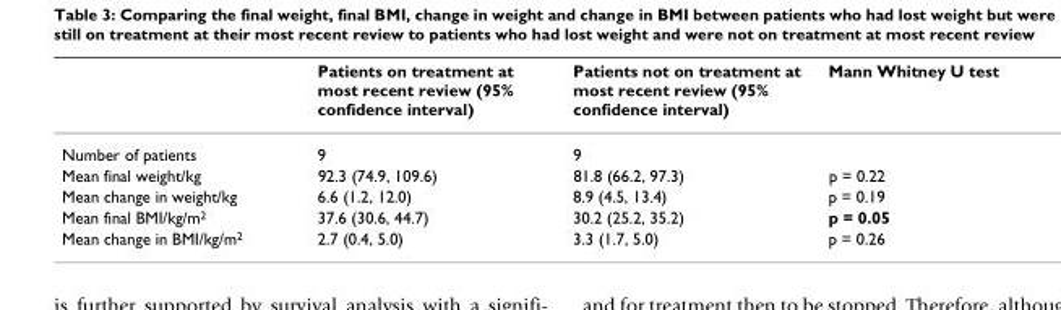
<table><thead><tr><td></td><td>Patients on treatment at most recent review (95% confidence interval)</td><td>Patients not on treatment at most recent review (95% confidence interval)</td><td>Mann Whitney U test</td></tr></thead><tbody><tr><td>Number of patients</td><td>9</td><td>9</td><td></td></tr><tr><td>Mean final weight/kg</td><td>92.3 (74.9, 109.6)</td><td>81.8 (66.2, 97.3)</td><td>p = 0.22</td></tr><tr><td>Mean change in weight/kg</td><td>6.6 (1.2, 12.0)</td><td>8.9 (4.5, 13.4)</td><td>p = 0.19</td></tr><tr><td>Mean final BMI/kg/m<sup>2</sup></td><td>37.6 (30.6, 44.7)</td><td>30.2 (25.2, 35.2)</td><td>p = 0.05</td></tr><tr><td>Mean change in BMI/kg/m<sup>2</sup></td><td>2.7 (0.4, 5.0)</td><td>3.3 (1.7, 5.0)</td><td>p = 0.26</td></tr></tbody></table>